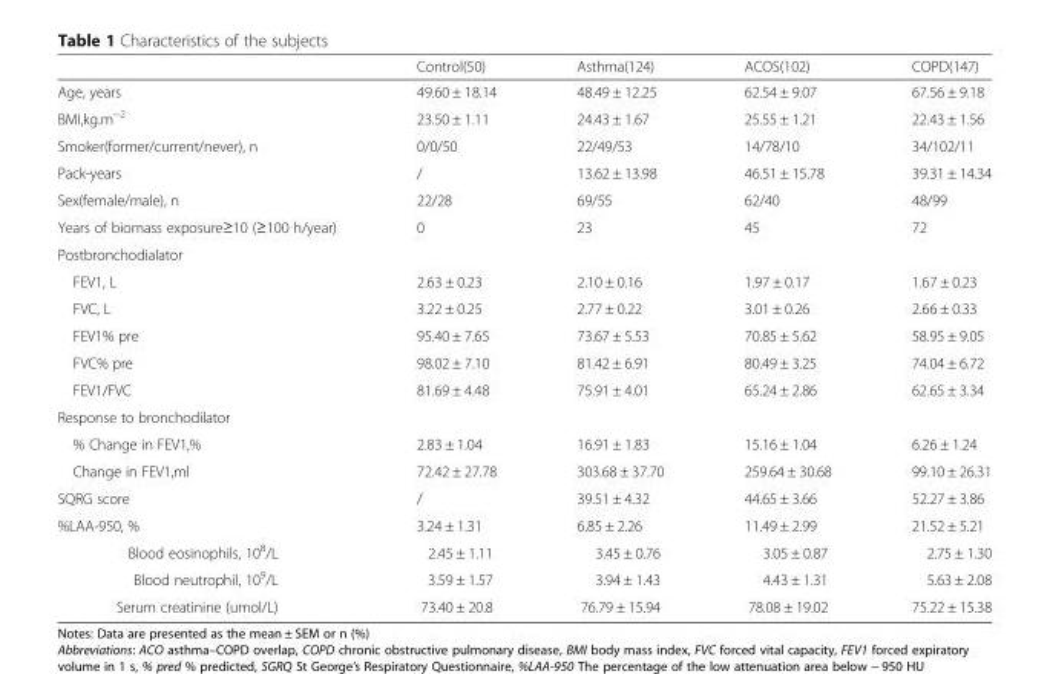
<table><thead><tr><td></td><td>Control(50)</td><td>Asthma(124)</td><td>ACOS(102)</td><td>COPD(147)</td></tr></thead><tbody><tr><td>Age, years</td><td>49.60 ± 18.14</td><td>48.49 ± 12.25</td><td>62.54 ± 9.07</td><td>67.56 ± 9.18</td></tr><tr><td>BMI,kg.m<sup>−2</sup></td><td>23.50 ± 1.11</td><td>24.43 ± 1.67</td><td>25.55 ± 1.21</td><td>22.43 ± 1.56</td></tr><tr><td>Smoker(former/current/never), n</td><td>0/0/50</td><td>22/49/53</td><td>14/78/10</td><td>34/102/11</td></tr><tr><td>Pack-years</td><td>/</td><td>13.62 ± 13.98</td><td>46.51 ± 15.78</td><td>39.31 ± 14.34</td></tr><tr><td>Sex(female/male), n</td><td>22/28</td><td>69/55</td><td>62/40</td><td>48/99</td></tr><tr><td>Years of biomass exposure≥10 (≥100 h/year)</td><td>0</td><td>23</td><td>45</td><td>72</td></tr><tr><td colspan="5">Postbronchodialator</td></tr><tr><td>FEV1, L</td><td>2.63 ± 0.23</td><td>2.10 ± 0.16</td><td>1.97 ± 0.17</td><td>1.67 ± 0.23</td></tr><tr><td>FVC, L</td><td>3.22 ± 0.25</td><td>2.77 ± 0.22</td><td>3.01 ± 0.26</td><td>2.66 ± 0.33</td></tr><tr><td>FEV1% pre</td><td>95.40 ± 7.65</td><td>73.67 ± 5.53</td><td>70.85 ± 5.62</td><td>58.95 ± 9.05</td></tr><tr><td>FVC% pre</td><td>98.02 ± 7.10</td><td>81.42 ± 6.91</td><td>80.49 ± 3.25</td><td>74.04 ± 6.72</td></tr><tr><td>FEV1/FVC</td><td>81.69 ± 4.48</td><td>75.91 ± 4.01</td><td>65.24 ± 2.86</td><td>62.65 ± 3.34</td></tr><tr><td colspan="5">Response to bronchodilator</td></tr><tr><td>% Change in FEV1,%</td><td>2.83 ± 1.04</td><td>16.91 ± 1.83</td><td>15.16 ± 1.04</td><td>6.26 ± 1.24</td></tr><tr><td>Change in FEV1,ml</td><td>72.42 ± 27.78</td><td>303.68 ± 37.70</td><td>259.64 ± 30.68</td><td>99.10 ± 26.31</td></tr><tr><td>SQRG score</td><td>/</td><td>39.51 ± 4.32</td><td>44.65 ± 3.66</td><td>52.27 ± 3.86</td></tr><tr><td>%LAA-950, %</td><td>3.24 ± 1.31</td><td>6.85 ± 2.26</td><td>11.49 ± 2.99</td><td>21.52 ± 5.21</td></tr><tr><td>Blood eosinophils, 10<sup>8</sup>/L</td><td>2.45 ± 1.11</td><td>3.45 ± 0.76</td><td>3.05 ± 0.87</td><td>2.75 ± 1.30</td></tr><tr><td>Blood neutrophil, 10<sup>9</sup>/L</td><td>3.59 ± 1.57</td><td>3.94 ± 1.43</td><td>4.43 ± 1.31</td><td>5.63 ± 2.08</td></tr><tr><td>Serum creatinine (umol/L)</td><td>73.40 ± 20.8</td><td>76.79 ± 15.94</td><td>78.08 ± 19.02</td><td>75.22 ± 15.38</td></tr></tbody></table>